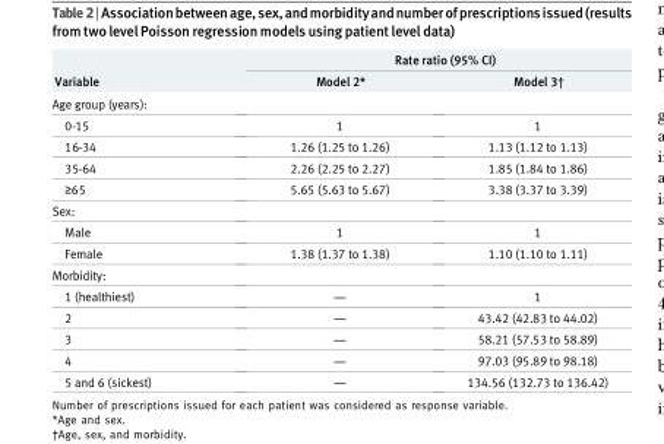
<table><thead><tr><td rowspan="2">Variable</td><td colspan="2">Rate ratio (95% CI)</td></tr><tr><td>Model 2*</td><td>Model 3†</td></tr></thead><tbody><tr><td colspan="3">Age group (years):</td></tr><tr><td>0-15</td><td>1</td><td>1</td></tr><tr><td>16-34</td><td>1.26 (1.25 to 1.26)</td><td>1.13 (1.12 to 1.13)</td></tr><tr><td>35-64</td><td>2.26 (2.25 to 2.27)</td><td>1.85 (1.84 to 1.86)</td></tr><tr><td>≥65</td><td>5.65 (5.63 to 5.67)</td><td>3.38 (3.37 to 3.39)</td></tr><tr><td colspan="3">Sex:</td></tr><tr><td>Male</td><td>1</td><td>1</td></tr><tr><td>Female</td><td>1.38 (1.37 to 1.38)</td><td>1.10 (1.10 to 1.11)</td></tr><tr><td colspan="3">Morbidity:</td></tr><tr><td>1 (healthiest)</td><td>—</td><td>1</td></tr><tr><td>2</td><td>—</td><td>43.42 (42.83 to 44.02)</td></tr><tr><td>3</td><td>—</td><td>58.21 (57.53 to 58.89)</td></tr><tr><td>4</td><td>—</td><td>97.03 (95.89 to 98.18)</td></tr><tr><td>5 and 6 (sickest)</td><td>—</td><td>134.56 (132.73 to 136.42)</td></tr></tbody></table>